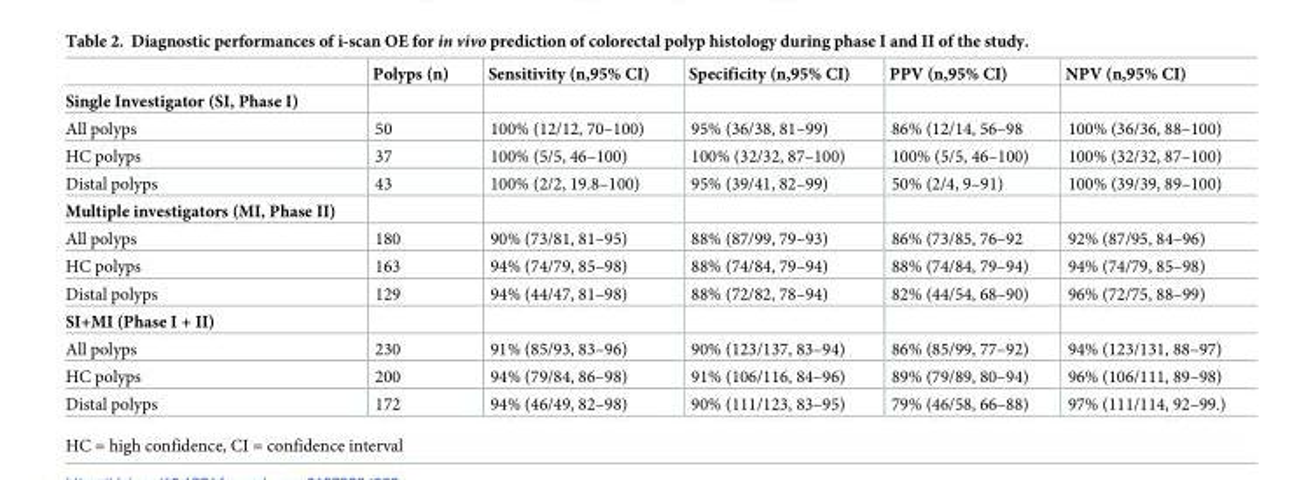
<table><thead><tr><td></td><td>Polyps (n)</td><td>Sensitivity (n,95% CI)</td><td>Specificity (n,95% CI)</td><td>PPV (n,95% CI)</td><td>NPV (n,95% CI)</td></tr></thead><tbody><tr><td colspan="6">Single Investigator (SI, Phase I)</td></tr><tr><td>All polyps</td><td>50</td><td>100% (12/12, 70–100)</td><td>95% (36/38, 81–99)</td><td>86% (12/14, 56–98</td><td>100% (36/36, 88–100)</td></tr><tr><td>HC polyps</td><td>37</td><td>100% (5/5, 46–100)</td><td>100% (32/32, 87–100)</td><td>100% (5/5, 46–100)</td><td>100% (32/32, 87–100)</td></tr><tr><td>Distal polyps</td><td>43</td><td>100% (2/2, 19.8–100)</td><td>95% (39/41, 82–99)</td><td>50% (2/4, 9–91)</td><td>100% (39/39, 89–100)</td></tr><tr><td colspan="6">Multiple investigators (MI, Phase II)</td></tr><tr><td>All polyps</td><td>180</td><td>90% (73/81, 81–95)</td><td>88% (87/99, 79–93)</td><td>86% (73/85, 76–92</td><td>92% (87/95, 84–96)</td></tr><tr><td>HC polyps</td><td>163</td><td>94% (74/79, 85–98)</td><td>88% (74/84, 79–94)</td><td>88% (74/84, 79–94)</td><td>94% (74/79, 85–98)</td></tr><tr><td>Distal polyps</td><td>129</td><td>94% (44/47, 81–98)</td><td>88% (72/82, 78–94)</td><td>82% (44/54, 68–90)</td><td>96% (72/75, 88–99)</td></tr><tr><td colspan="6">SI+MI (Phase I + II)</td></tr><tr><td>All polyps</td><td>230</td><td>91% (85/93, 83–96)</td><td>90% (123/137, 83–94)</td><td>86% (85/99, 77–92)</td><td>94% (123/131, 88–97)</td></tr><tr><td>HC polyps</td><td>200</td><td>94% (79/84, 86–98)</td><td>91% (106/116, 84–96)</td><td>89% (79/89, 80–94)</td><td>96% (106/111, 89–98)</td></tr><tr><td>Distal polyps</td><td>172</td><td>94% (46/49, 82–98)</td><td>90% (111/123, 83–95)</td><td>79% (46/58, 66–88)</td><td>97% (111/114, 92–99.)</td></tr></tbody></table>